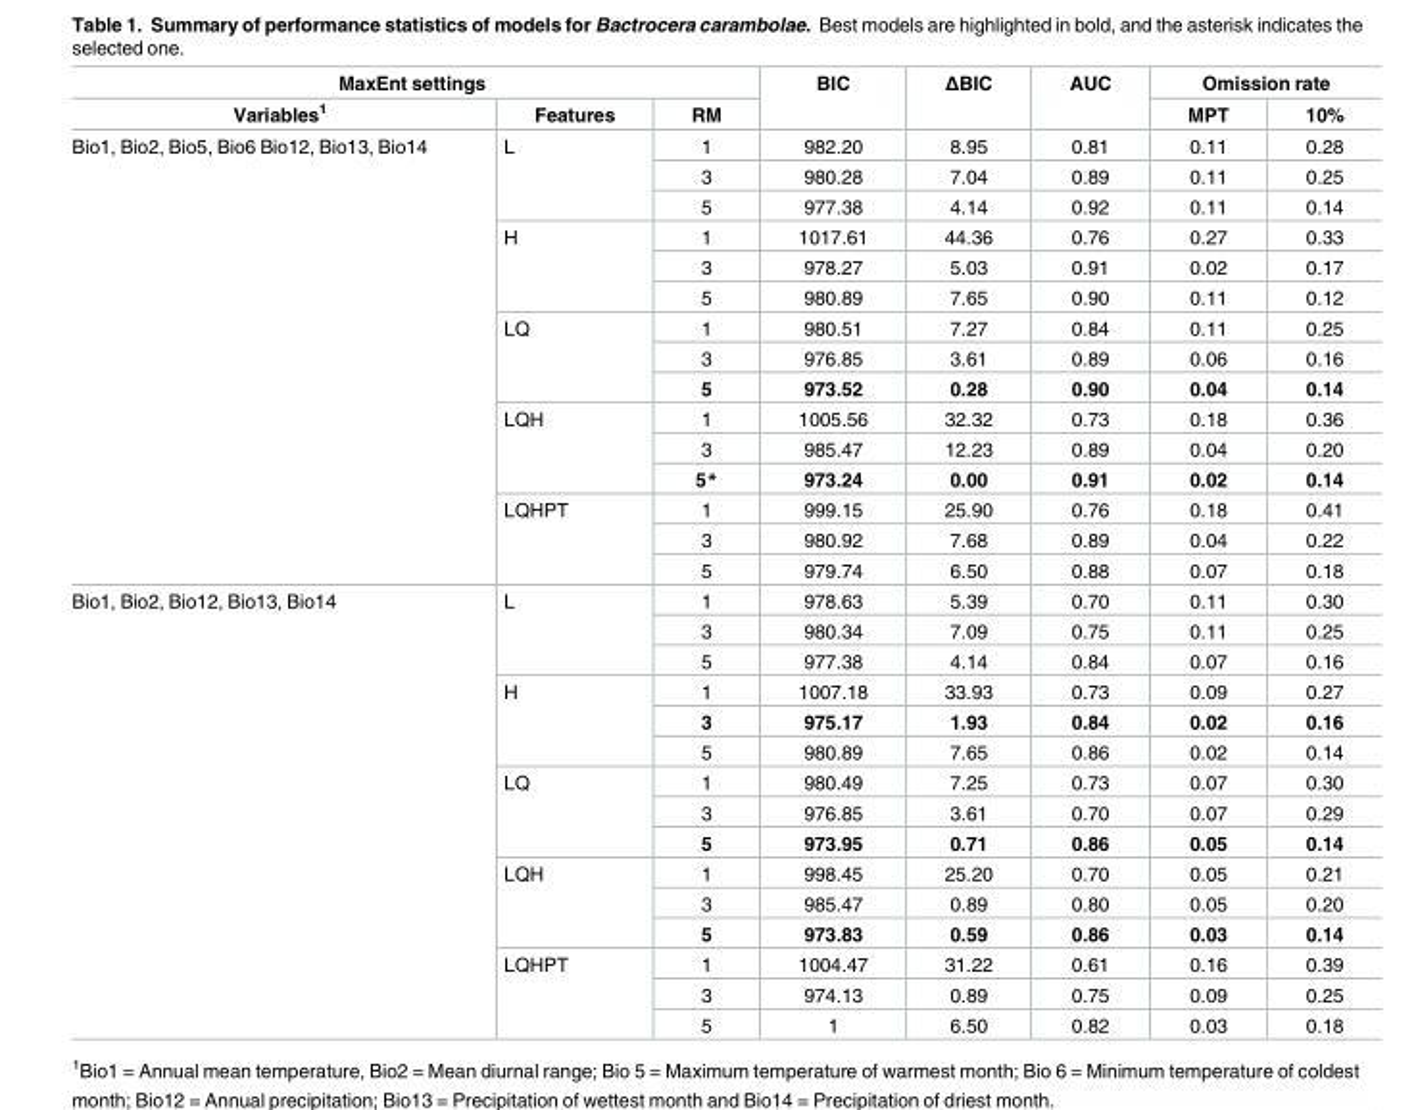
<table><thead><tr><td colspan="3">MaxEnt settings</td><td rowspan="2">BIC</td><td rowspan="2">ΔBIC</td><td rowspan="2">AUC</td><td colspan="2">Omission rate</td></tr><tr><td>Variables<sup>1</sup></td><td>Features</td><td>RM</td><td>MPT</td><td>10%</td></tr></thead><tbody><tr><td rowspan="15">Bio1, Bio2, Bio5, Bio6 Bio12, Bio13, Bio14</td><td rowspan="3">L</td><td>1</td><td>982.20</td><td>8.95</td><td>0.81</td><td>0.11</td><td>0.28</td></tr><tr><td>3</td><td>980.28</td><td>7.04</td><td>0.89</td><td>0.11</td><td>0.25</td></tr><tr><td>5</td><td>977.38</td><td>4.14</td><td>0.92</td><td>0.11</td><td>0.14</td></tr><tr><td rowspan="3">H</td><td>1</td><td>1017.61</td><td>44.36</td><td>0.76</td><td>0.27</td><td>0.33</td></tr><tr><td>3</td><td>978.27</td><td>5.03</td><td>0.91</td><td>0.02</td><td>0.17</td></tr><tr><td>5</td><td>980.89</td><td>7.65</td><td>0.90</td><td>0.11</td><td>0.12</td></tr><tr><td rowspan="3">LQ</td><td>1</td><td>980.51</td><td>7.27</td><td>0.84</td><td>0.11</td><td>0.25</td></tr><tr><td>3</td><td>976.85</td><td>3.61</td><td>0.89</td><td>0.06</td><td>0.16</td></tr><tr><td>5</td><td>973.52</td><td>0.28</td><td>0.90</td><td>0.04</td><td>0.14</td></tr><tr><td rowspan="3">LQH</td><td>1</td><td>1005.56</td><td>32.32</td><td>0.73</td><td>0.18</td><td>0.36</td></tr><tr><td>3</td><td>985.47</td><td>12.23</td><td>0.89</td><td>0.04</td><td>0.20</td></tr><tr><td>5*</td><td>973.24</td><td>0.00</td><td>0.91</td><td>0.02</td><td>0.14</td></tr><tr><td rowspan="3">LQHPT</td><td>1</td><td>999.15</td><td>25.90</td><td>0.76</td><td>0.18</td><td>0.41</td></tr><tr><td>3</td><td>980.92</td><td>7.68</td><td>0.89</td><td>0.04</td><td>0.22</td></tr><tr><td>5</td><td>979.74</td><td>6.50</td><td>0.88</td><td>0.07</td><td>0.18</td></tr><tr><td rowspan="15">Bio1, Bio2, Bio12, Bio13, Bio14</td><td rowspan="3">L</td><td>1</td><td>978.63</td><td>5.39</td><td>0.70</td><td>0.11</td><td>0.30</td></tr><tr><td>3</td><td>980.34</td><td>7.09</td><td>0.75</td><td>0.11</td><td>0.25</td></tr><tr><td>5</td><td>977.38</td><td>4.14</td><td>0.84</td><td>0.07</td><td>0.16</td></tr><tr><td rowspan="3">H</td><td>1</td><td>1007.18</td><td>33.93</td><td>0.73</td><td>0.09</td><td>0.27</td></tr><tr><td>3</td><td>975.17</td><td>1.93</td><td>0.84</td><td>0.02</td><td>0.16</td></tr><tr><td>5</td><td>980.89</td><td>7.65</td><td>0.86</td><td>0.02</td><td>0.14</td></tr><tr><td rowspan="3">LQ</td><td>1</td><td>980.49</td><td>7.25</td><td>0.73</td><td>0.07</td><td>0.30</td></tr><tr><td>3</td><td>976.85</td><td>3.61</td><td>0.70</td><td>0.07</td><td>0.29</td></tr><tr><td>5</td><td>973.95</td><td>0.71</td><td>0.86</td><td>0.05</td><td>0.14</td></tr><tr><td rowspan="3">LQH</td><td>1</td><td>998.45</td><td>25.20</td><td>0.70</td><td>0.05</td><td>0.21</td></tr><tr><td>3</td><td>985.47</td><td>0.89</td><td>0.80</td><td>0.05</td><td>0.20</td></tr><tr><td>5</td><td>973.83</td><td>0.59</td><td>0.86</td><td>0.03</td><td>0.14</td></tr><tr><td rowspan="3">LQHPT</td><td>1</td><td>1004.47</td><td>31.22</td><td>0.61</td><td>0.16</td><td>0.39</td></tr><tr><td>3</td><td>974.13</td><td>0.89</td><td>0.75</td><td>0.09</td><td>0.25</td></tr><tr><td>5</td><td>1</td><td>6.50</td><td>0.82</td><td>0.03</td><td>0.18</td></tr></tbody></table>